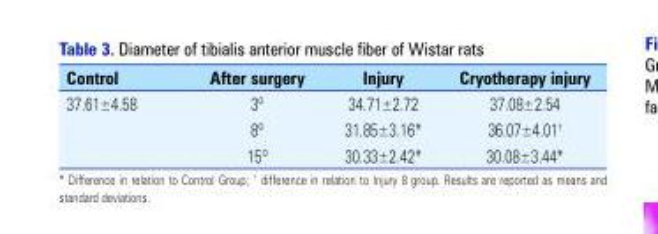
<table><thead><tr><td>Control</td><td>After surgery</td><td>Injury</td><td>Cryotherapy injury</td></tr></thead><tbody><tr><td rowspan="3">37.61±4.58</td><td>3º</td><td>34.71±2.72</td><td>37.08±2.54</td></tr><tr><td>8º</td><td>31.85±3.16*</td><td>36.07±4.01†</td></tr><tr><td>15º</td><td>30.33±2.42*</td><td>30.08±3.44*</td></tr></tbody></table>